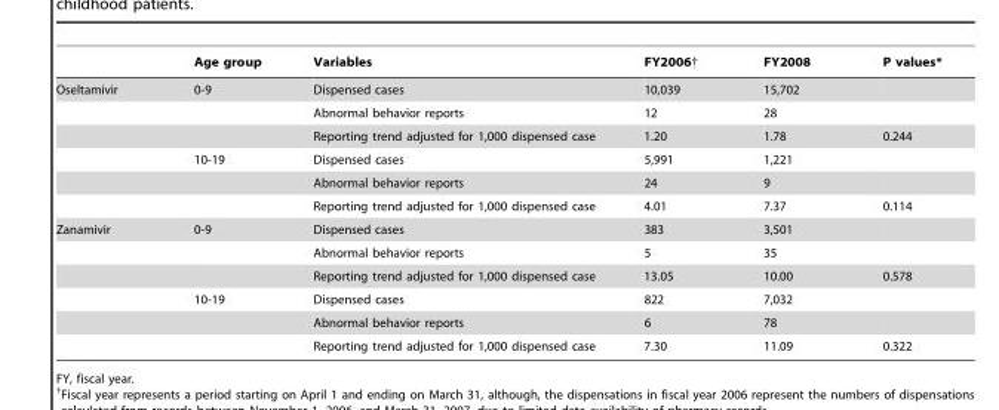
<table><thead><tr><td></td><td>Age group</td><td>Variables</td><td>FY2006†</td><td>FY2008</td><td>P values*</td></tr></thead><tbody><tr><td rowspan="6">Oseltamivir</td><td>0-9</td><td>Dispensed cases</td><td>10,039</td><td>15,702</td><td></td></tr><tr><td></td><td>Abnormal behavior reports</td><td>12</td><td>28</td><td></td></tr><tr><td></td><td>Reporting trend adjusted for 1,000 dispensed case</td><td>1.20</td><td>1.78</td><td>0.244</td></tr><tr><td>10-19</td><td>Dispensed cases</td><td>5,991</td><td>1,221</td><td></td></tr><tr><td></td><td>Abnormal behavior reports</td><td>24</td><td>9</td><td></td></tr><tr><td></td><td>Reporting trend adjusted for 1,000 dispensed case</td><td>4.01</td><td>7.37</td><td>0.114</td></tr><tr><td rowspan="6">Zanamivir</td><td>0-9</td><td>Dispensed cases</td><td>383</td><td>3,501</td><td></td></tr><tr><td></td><td>Abnormal behavior reports</td><td>5</td><td>35</td><td></td></tr><tr><td></td><td>Reporting trend adjusted for 1,000 dispensed case</td><td>13.05</td><td>10.00</td><td>0.578</td></tr><tr><td>10-19</td><td>Dispensed cases</td><td>822</td><td>7,032</td><td></td></tr><tr><td></td><td>Abnormal behavior reports</td><td>6</td><td>78</td><td></td></tr><tr><td></td><td>Reporting trend adjusted for 1,000 dispensed case</td><td>7.30</td><td>11.09</td><td>0.322</td></tr></tbody></table>